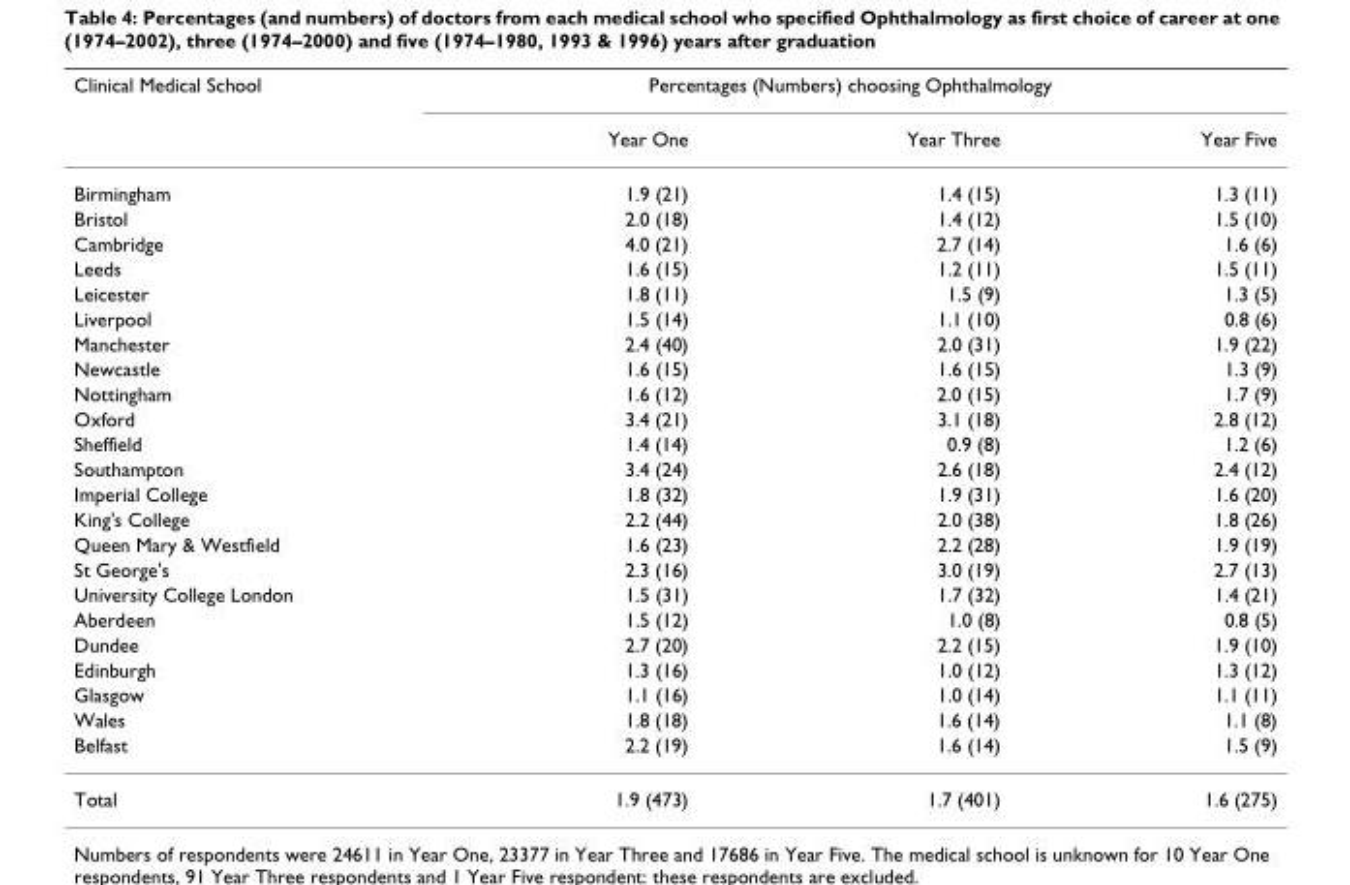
<table><thead><tr><td rowspan="2">Clinical Medical School</td><td colspan="3">Percentages (Numbers) choosing Ophthalmology</td></tr><tr><td>Year One</td><td>Year Three</td><td>Year Five</td></tr></thead><tbody><tr><td>Birmingham</td><td>1.9 (21)</td><td>1.4 (15)</td><td>1.3 (11)</td></tr><tr><td>Bristol</td><td>2.0 (18)</td><td>1.4 (12)</td><td>1.5 (10)</td></tr><tr><td>Cambridge</td><td>4.0 (21)</td><td>2.7 (14)</td><td>1.6 (6)</td></tr><tr><td>Leeds</td><td>1.6 (15)</td><td>1.2 (11)</td><td>1.5 (11)</td></tr><tr><td>Leicester</td><td>1.8 (11)</td><td>1.5 (9)</td><td>1.3 (5)</td></tr><tr><td>Liverpool</td><td>1.5 (14)</td><td>1.1 (10)</td><td>0.8 (6)</td></tr><tr><td>Manchester</td><td>2.4 (40)</td><td>2.0 (31)</td><td>1.9 (22)</td></tr><tr><td>Newcastle</td><td>1.6 (15)</td><td>1.6 (15)</td><td>1.3 (9)</td></tr><tr><td>Nottingham</td><td>1.6 (12)</td><td>2.0 (15)</td><td>1.7 (9)</td></tr><tr><td>Oxford</td><td>3.4 (21)</td><td>3.1 (18)</td><td>2.8 (12)</td></tr><tr><td>Sheffield</td><td>1.4 (14)</td><td>0.9 (8)</td><td>1.2 (6)</td></tr><tr><td>Southampton</td><td>3.4 (24)</td><td>2.6 (18)</td><td>2.4 (12)</td></tr><tr><td>Imperial College</td><td>1.8 (32)</td><td>1.9 (31)</td><td>1.6 (20)</td></tr><tr><td>King&#x27;s College</td><td>2.2 (44)</td><td>2.0 (38)</td><td>1.8 (26)</td></tr><tr><td>Queen Mary &amp; Westfield</td><td>1.6 (23)</td><td>2.2 (28)</td><td>1.9 (19)</td></tr><tr><td>St George&#x27;s</td><td>2.3 (16)</td><td>3.0 (19)</td><td>2.7 (13)</td></tr><tr><td>University College London</td><td>1.5 (31)</td><td>1.7 (32)</td><td>1.4 (21)</td></tr><tr><td>Aberdeen</td><td>1.5 (12)</td><td>1.0 (8)</td><td>0.8 (5)</td></tr><tr><td>Dundee</td><td>2.7 (20)</td><td>2.2 (15)</td><td>1.9 (10)</td></tr><tr><td>Edinburgh</td><td>1.3 (16)</td><td>1.0 (12)</td><td>1.3 (12)</td></tr><tr><td>Glasgow</td><td>1.1 (16)</td><td>1.0 (14)</td><td>1.1 (11)</td></tr><tr><td>Wales</td><td>1.8 (18)</td><td>1.6 (14)</td><td>1.1 (8)</td></tr><tr><td>Belfast</td><td>2.2 (19)</td><td>1.6 (14)</td><td>1.5 (9)</td></tr><tr><td>Total</td><td>1.9 (473)</td><td>1.7 (401)</td><td>1.6 (275)</td></tr></tbody></table>